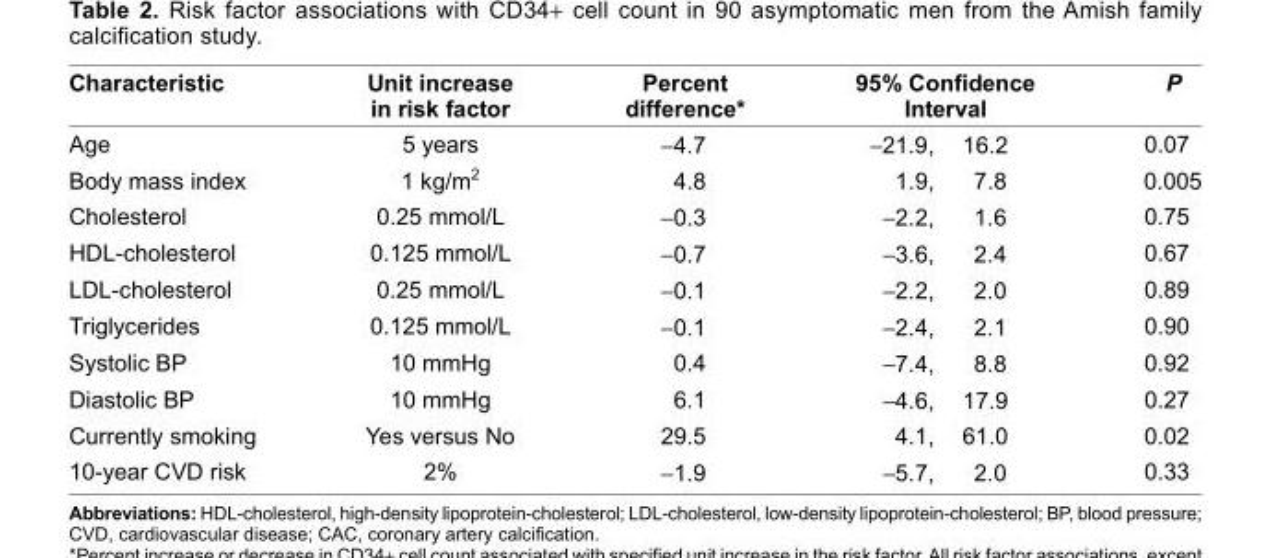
<table><thead><tr><td rowspan="2">Characteristic Age</td><td rowspan="2">Unit increase in risk factor 5 years</td><td rowspan="2">Percent difference* −4.7</td><td colspan="2">95% Confi dence Interval</td><td rowspan="2">P 0.07</td></tr><tr><td>−21.9,</td><td>16.2</td></tr></thead><tbody><tr><td>Body mass index</td><td>1 kg/m<sup>2</sup></td><td>4.8</td><td>1.9,</td><td>7.8</td><td>0.005</td></tr><tr><td>Cholesterol</td><td>0.25 mmol/L</td><td>−0.3</td><td>−2.2,</td><td>1.6</td><td>0.75</td></tr><tr><td>HDL-cholesterol</td><td>0.125 mmol/L</td><td>−0.7</td><td>−3.6,</td><td>2.4</td><td>0.67</td></tr><tr><td>LDL-cholesterol</td><td>0.25 mmol/L</td><td>−0.1</td><td>−2.2,</td><td>2.0</td><td>0.89</td></tr><tr><td>Triglycerides</td><td>0.125 mmol/L</td><td>−0.1</td><td>−2.4,</td><td>2.1</td><td>0.90</td></tr><tr><td>Systolic BP</td><td>10 mmHg</td><td>0.4</td><td>−7.4,</td><td>8.8</td><td>0.92</td></tr><tr><td>Diastolic BP</td><td>10 mmHg</td><td>6.1</td><td>−4.6,</td><td>17.9</td><td>0.27</td></tr><tr><td>Currently smoking</td><td>Yes versus No</td><td>29.5</td><td>4.1,</td><td>61.0</td><td>0.02</td></tr><tr><td>10-year CVD risk</td><td>2%</td><td>−1.9</td><td>−5.7,</td><td>2.0</td><td>0.33</td></tr></tbody></table>